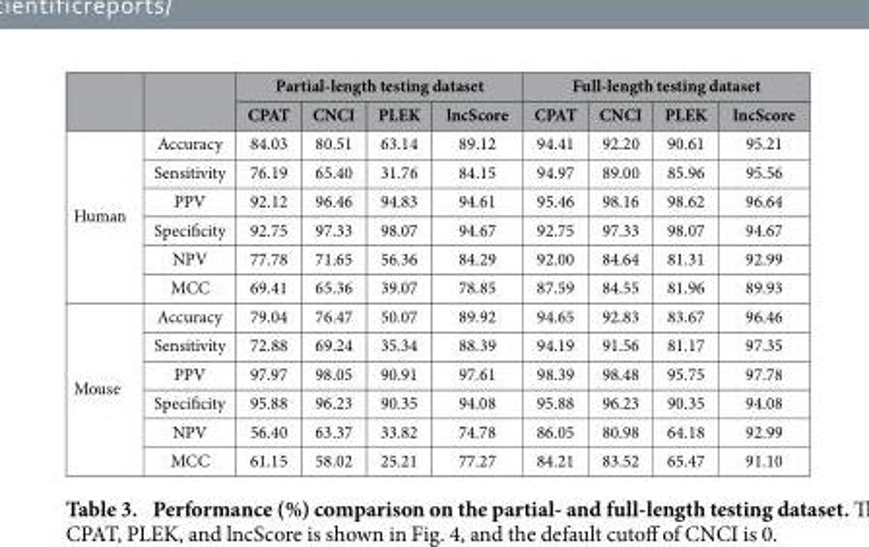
<table><thead><tr><td rowspan="2"></td><td rowspan="2"></td><td colspan="4">Partial-length testing dataset</td><td colspan="4">Full-length testing dataset</td></tr><tr><td>CPAT</td><td>CNCI</td><td>PLEK</td><td>lncScore</td><td>CPAT</td><td>CNCI</td><td>PLEK</td><td>lncScore</td></tr></thead><tbody><tr><td rowspan="6">Human</td><td>Accuracy</td><td>84.03</td><td>80.51</td><td>63.14</td><td>89.12</td><td>94.41</td><td>92.20</td><td>90.61</td><td>95.21</td></tr><tr><td>Sensitivity</td><td>76.19</td><td>65.40</td><td>31.76</td><td>84.15</td><td>94.97</td><td>89.00</td><td>85.96</td><td>95.56</td></tr><tr><td>PPV</td><td>92.12</td><td>96.46</td><td>94.83</td><td>94.61</td><td>95.46</td><td>98.16</td><td>98.62</td><td>96.64</td></tr><tr><td>Specificity</td><td>92.75</td><td>97.33</td><td>98.07</td><td>94.67</td><td>92.75</td><td>97.33</td><td>98.07</td><td>94.67</td></tr><tr><td>NPV</td><td>77.78</td><td>71.65</td><td>56.36</td><td>84.29</td><td>92.00</td><td>84.64</td><td>81.31</td><td>92.99</td></tr><tr><td>MCC</td><td>69.41</td><td>65.36</td><td>39.07</td><td>78.85</td><td>87.59</td><td>84.55</td><td>81.96</td><td>89.93</td></tr><tr><td rowspan="6">Mouse</td><td>Accuracy</td><td>79.04</td><td>76.47</td><td>50.07</td><td>89.92</td><td>94.65</td><td>92.83</td><td>83.67</td><td>96.46</td></tr><tr><td>Sensitivity</td><td>72.88</td><td>69.24</td><td>35.34</td><td>88.39</td><td>94.19</td><td>91.56</td><td>81.17</td><td>97.35</td></tr><tr><td>PPV</td><td>97.97</td><td>98.05</td><td>90.91</td><td>97.61</td><td>98.39</td><td>98.48</td><td>95.75</td><td>97.78</td></tr><tr><td>Specificity</td><td>95.88</td><td>96.23</td><td>90.35</td><td>94.08</td><td>95.88</td><td>96.23</td><td>90.35</td><td>94.08</td></tr><tr><td>NPV</td><td>56.40</td><td>63.37</td><td>33.82</td><td>74.78</td><td>86.05</td><td>80.98</td><td>64.18</td><td>92.99</td></tr><tr><td>MCC</td><td>61.15</td><td>58.02</td><td>25.21</td><td>77.27</td><td>84.21</td><td>83.52</td><td>65.47</td><td>91.10</td></tr></tbody></table>